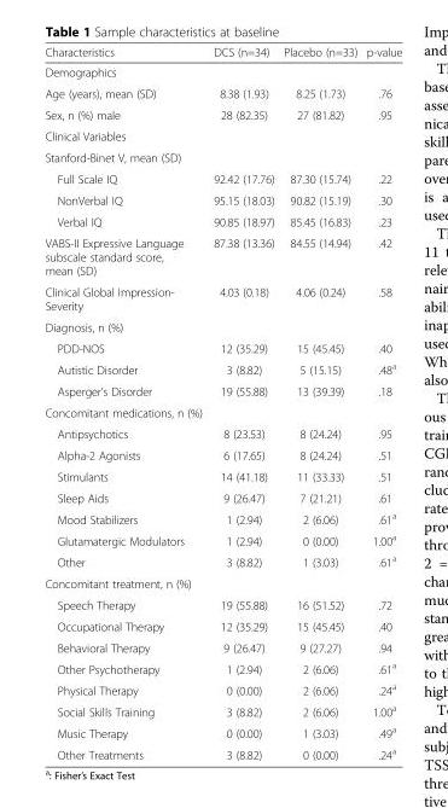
<table><thead><tr><td>Characteristics</td><td>DCS (n=34)</td><td>Placebo (n=33)</td><td>p-value</td></tr></thead><tbody><tr><td colspan="4">Demographics</td></tr><tr><td>Age (years), mean (SD)</td><td>8.38 (1.93)</td><td>8.25 (1.73)</td><td>.76</td></tr><tr><td>Sex, n (%) male</td><td>28 (82.35)</td><td>27 (81.82)</td><td>.95</td></tr><tr><td colspan="4">Clinical Variables</td></tr><tr><td colspan="4">Stanford-Binet V, mean (SD)</td></tr><tr><td>Full Scale IQ</td><td>92.42 (17.76)</td><td>87.30 (15.74)</td><td>.22</td></tr><tr><td>NonVerbal IQ</td><td>95.15 (18.03)</td><td>90.82 (15.19)</td><td>.30</td></tr><tr><td>Verbal IQ</td><td>90.85 (18.97)</td><td>85.45 (16.83)</td><td>.23</td></tr><tr><td>VABS-II Expressive Language subscale standard score, mean (SD)</td><td>87.38 (13.36)</td><td>84.55 (14.94)</td><td>.42</td></tr><tr><td>Clinical Global Impression- Severity</td><td>4.03 (0.18)</td><td>4.06 (0.24)</td><td>.58</td></tr><tr><td colspan="4">Diagnosis, n (%)</td></tr><tr><td>PDD-NOS</td><td>12 (35.29)</td><td>15 (45.45)</td><td>.40</td></tr><tr><td>Autistic Disorder</td><td>3 (8.82)</td><td>5 (15.15)</td><td>.48<sup>a</sup></td></tr><tr><td>Asperger’s Disorder</td><td>19 (55.88)</td><td>13 (39.39)</td><td>.18</td></tr><tr><td colspan="4">Concomitant medications, n (%)</td></tr><tr><td>Antipsychotics</td><td>8 (23.53)</td><td>8 (24.24)</td><td>.95</td></tr><tr><td>Alpha-2 Agonists</td><td>6 (17.65)</td><td>8 (24.24)</td><td>.51</td></tr><tr><td>Stimulants</td><td>14 (41.18)</td><td>11 (33.33)</td><td>.51</td></tr><tr><td>Sleep Aids</td><td>9 (26.47)</td><td>7 (21.21)</td><td>.61</td></tr><tr><td>Mood Stabilizers</td><td>1 (2.94)</td><td>2 (6.06)</td><td>.61<sup>a</sup></td></tr><tr><td>Glutamatergic Modulators</td><td>1 (2.94)</td><td>0 (0.00)</td><td>1.00<sup>a</sup></td></tr><tr><td>Other</td><td>3 (8.82)</td><td>1 (3.03)</td><td>.61<sup>a</sup></td></tr><tr><td colspan="4">Concomitant treatment, n (%)</td></tr><tr><td>Speech Therapy</td><td>19 (55.88)</td><td>16 (51.52)</td><td>.72</td></tr><tr><td>Occupational Therapy</td><td>12 (35.29)</td><td>15 (45.45)</td><td>.40</td></tr><tr><td>Behavioral Therapy</td><td>9 (26.47)</td><td>9 (27.27)</td><td>.94</td></tr><tr><td>Other Psychotherapy</td><td>1 (2.94)</td><td>2 (6.06)</td><td>.61<sup>a</sup></td></tr><tr><td>Physical Therapy</td><td>0 (0.00)</td><td>2 (6.06)</td><td>.24<sup>a</sup></td></tr><tr><td>Social Skills Training</td><td>3 (8.82)</td><td>2 (6.06)</td><td>1.00<sup>a</sup></td></tr><tr><td>Music Therapy</td><td>0 (0.00)</td><td>1 (3.03)</td><td>.49<sup>a</sup></td></tr><tr><td>Other Treatments</td><td>3 (8.82)</td><td>0 (0.00)</td><td>.24<sup>a</sup></td></tr></tbody></table>